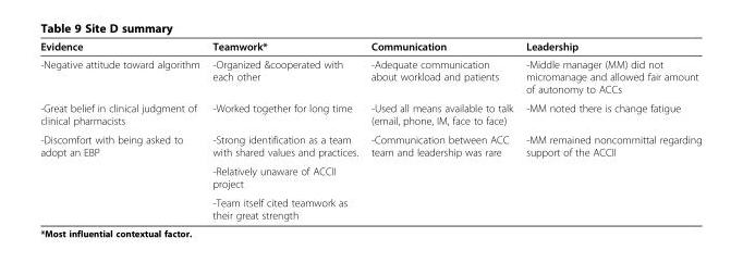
<table><thead><tr><td>Evidence</td><td>Teamwork*</td><td>Communication</td><td>Leadership</td></tr></thead><tbody><tr><td>-Negative attitude toward algorithm</td><td>-Organized &amp;cooperated with each other</td><td>-Adequate communication about workload and patients</td><td>-Middle manager (MM) did not micromanage and allowed fair amount of autonomy to ACCs</td></tr><tr><td>-Great belief in clinical judgment of clinical pharmacists</td><td>-Worked together for long time</td><td>-Used all means available to talk (email, phone, IM, face to face)</td><td>-MM noted there is change fatigue</td></tr><tr><td rowspan="3">-Discomfort with being asked to adopt an EBP</td><td>-Strong identification as a team with shared values and practices.</td><td rowspan="3">-Communication between ACC team and leadership was rare</td><td rowspan="3">-MM remained noncommittal regarding support of the ACCII</td></tr><tr><td>-Relatively unaware of ACCII project</td></tr><tr><td>-Team itself cited teamwork as their great strength</td></tr></tbody></table>